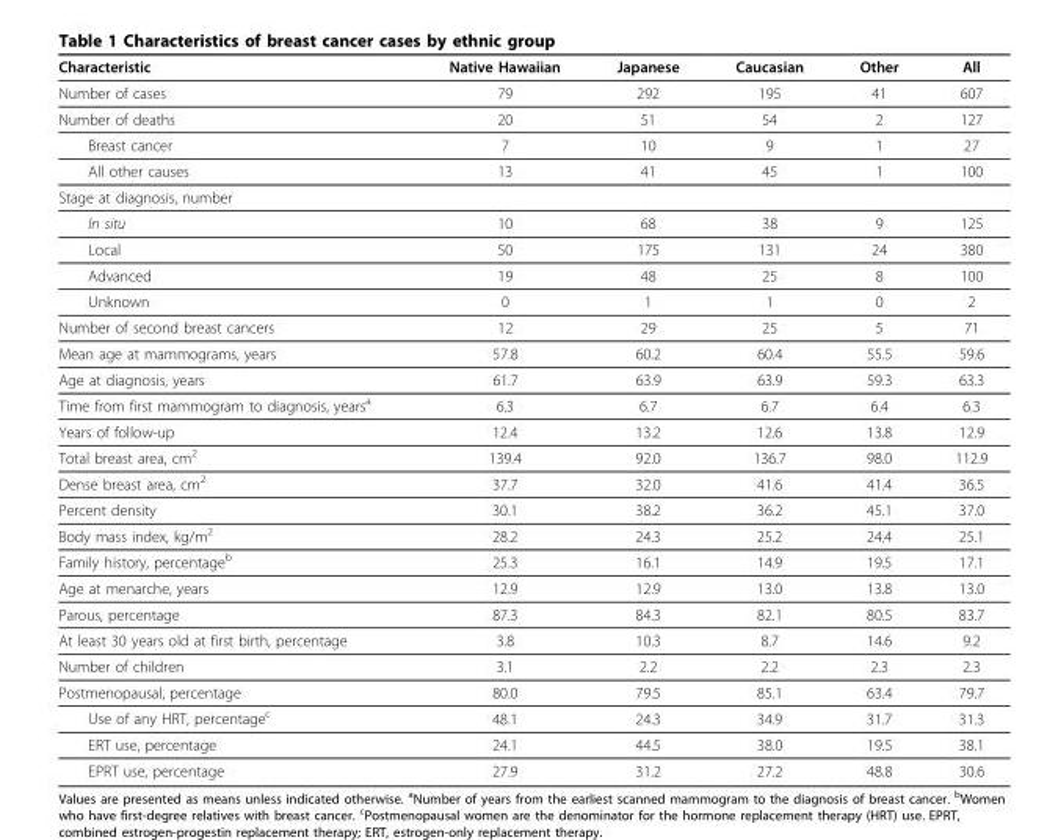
<table><thead><tr><td>Characteristic</td><td>Native Hawaiian</td><td>Japanese</td><td>Caucasian</td><td>Other</td><td>All</td></tr></thead><tbody><tr><td>Number of cases</td><td>79</td><td>292</td><td>195</td><td>41</td><td>607</td></tr><tr><td>Number of deaths</td><td>20</td><td>51</td><td>54</td><td>2</td><td>127</td></tr><tr><td>Breast cancer</td><td>7</td><td>10</td><td>9</td><td>1</td><td>27</td></tr><tr><td>All other causes</td><td>13</td><td>41</td><td>45</td><td>1</td><td>100</td></tr><tr><td colspan="6">Stage at diagnosis, number</td></tr><tr><td>In situ</td><td>10</td><td>68</td><td>38</td><td>9</td><td>125</td></tr><tr><td>Local</td><td>50</td><td>175</td><td>131</td><td>24</td><td>380</td></tr><tr><td>Advanced</td><td>19</td><td>48</td><td>25</td><td>8</td><td>100</td></tr><tr><td>Unknown</td><td>0</td><td>1</td><td>1</td><td>0</td><td>2</td></tr><tr><td>Number of second breast cancers</td><td>12</td><td>29</td><td>25</td><td>5</td><td>71</td></tr><tr><td>Mean age at mammograms, years</td><td>57.8</td><td>60.2</td><td>60.4</td><td>55.5</td><td>59.6</td></tr><tr><td>Age at diagnosis, years</td><td>61.7</td><td>63.9</td><td>63.9</td><td>59.3</td><td>63.3</td></tr><tr><td>Time from first mammogram to diagnosis, years<sup>a</sup></td><td>6.3</td><td>6.7</td><td>6.7</td><td>6.4</td><td>6.3</td></tr><tr><td>Years of follow-up</td><td>12.4</td><td>13.2</td><td>12.6</td><td>13.8</td><td>12.9</td></tr><tr><td>Total breast area, cm<sup>2</sup></td><td>139.4</td><td>92.0</td><td>136.7</td><td>98.0</td><td>112.9</td></tr><tr><td>Dense breast area, cm<sup>2</sup></td><td>37.7</td><td>32.0</td><td>41.6</td><td>41.4</td><td>36.5</td></tr><tr><td>Percent density</td><td>30.1</td><td>38.2</td><td>36.2</td><td>45.1</td><td>37.0</td></tr><tr><td>Body mass index, kg/m<sup>2</sup></td><td>28.2</td><td>24.3</td><td>25.2</td><td>24.4</td><td>25.1</td></tr><tr><td>Family history, percentage<sup>b</sup></td><td>25.3</td><td>16.1</td><td>14.9</td><td>19.5</td><td>17.1</td></tr><tr><td>Age at menarche, years</td><td>12.9</td><td>12.9</td><td>13.0</td><td>13.8</td><td>13.0</td></tr><tr><td>Parous, percentage</td><td>87.3</td><td>84.3</td><td>82.1</td><td>80.5</td><td>83.7</td></tr><tr><td>At least 30 years old at first birth, percentage</td><td>3.8</td><td>10.3</td><td>8.7</td><td>14.6</td><td>9.2</td></tr><tr><td>Number of children</td><td>3.1</td><td>2.2</td><td>2.2</td><td>2.3</td><td>2.3</td></tr><tr><td>Postmenopausal, percentage</td><td>80.0</td><td>79.5</td><td>85.1</td><td>63.4</td><td>79.7</td></tr><tr><td>Use of any HRT, percentage<sup>c</sup></td><td>48.1</td><td>24.3</td><td>34.9</td><td>31.7</td><td>31.3</td></tr><tr><td>ERT use, percentage</td><td>24.1</td><td>44.5</td><td>38.0</td><td>19.5</td><td>38.1</td></tr><tr><td>EPRT use, percentage</td><td>27.9</td><td>31.2</td><td>27.2</td><td>48.8</td><td>30.6</td></tr></tbody></table>